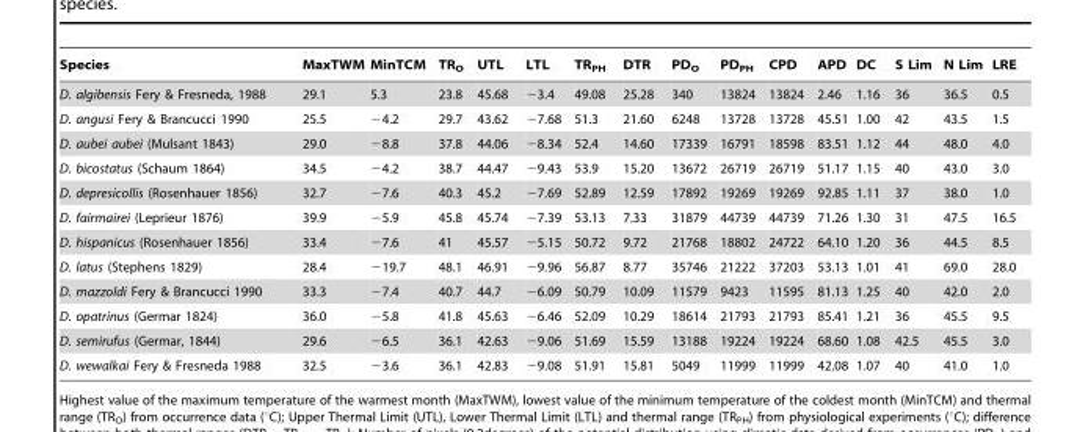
<table><thead><tr><td>Species</td><td>MaxTWM</td><td>MinTCM</td><td>TR<sub>O</sub></td><td>UTL</td><td>LTL</td><td>TR<sub>PH</sub></td><td>DTR</td><td>PD<sub>O</sub></td><td>PD<sub>PH</sub></td><td>CPD</td><td>APD</td><td>DC</td><td>S Lim</td><td>N Lim</td><td>LRE</td></tr></thead><tbody><tr><td>D. algibensis Fery &amp; Fresneda, 1988</td><td>29.1</td><td>5.3</td><td>23.8</td><td>45.68</td><td>−3.4</td><td>49.08</td><td>25.28</td><td>340</td><td>13824</td><td>13824</td><td>2.46</td><td>1.16</td><td>36</td><td>36.5</td><td>0.5</td></tr><tr><td>D. angusi Fery &amp; Brancucci 1990</td><td>25.5</td><td>−4.2</td><td>29.7</td><td>43.62</td><td>−7.68</td><td>51.3</td><td>21.60</td><td>6248</td><td>13728</td><td>13728</td><td>45.51</td><td>1.00</td><td>42</td><td>43.5</td><td>1.5</td></tr><tr><td>D. aubei aubei (Mulsant 1843)</td><td>29.0</td><td>−8.8</td><td>37.8</td><td>44.06</td><td>−8.34</td><td>52.4</td><td>14.60</td><td>17339</td><td>16791</td><td>18598</td><td>83.51</td><td>1.12</td><td>44</td><td>48.0</td><td>4.0</td></tr><tr><td>D. bicostatus (Schaum 1864)</td><td>34.5</td><td>−4.2</td><td>38.7</td><td>44.47</td><td>−9.43</td><td>53.9</td><td>15.20</td><td>13672</td><td>26719</td><td>26719</td><td>51.17</td><td>1.15</td><td>40</td><td>43.0</td><td>3.0</td></tr><tr><td>D. depresicollis (Rosenhauer 1856)</td><td>32.7</td><td>−7.6</td><td>40.3</td><td>45.2</td><td>−7.69</td><td>52.89</td><td>12.59</td><td>17892</td><td>19269</td><td>19269</td><td>92.85</td><td>1.11</td><td>37</td><td>38.0</td><td>1.0</td></tr><tr><td>D. fairmairei (Leprieur 1876)</td><td>39.9</td><td>−5.9</td><td>45.8</td><td>45.74</td><td>−7.39</td><td>53.13</td><td>7.33</td><td>31879</td><td>44739</td><td>44739</td><td>71.26</td><td>1.30</td><td>31</td><td>47.5</td><td>16.5</td></tr><tr><td>D. hispanicus (Rosenhauer 1856)</td><td>33.4</td><td>−7.6</td><td>41</td><td>45.57</td><td>−5.15</td><td>50.72</td><td>9.72</td><td>21768</td><td>18802</td><td>24722</td><td>64.10</td><td>1.20</td><td>36</td><td>44.5</td><td>8.5</td></tr><tr><td>D. latus (Stephens 1829)</td><td>28.4</td><td>−19.7</td><td>48.1</td><td>46.91</td><td>−9.96</td><td>56.87</td><td>8.77</td><td>35746</td><td>21222</td><td>37203</td><td>53.13</td><td>1.01</td><td>41</td><td>69.0</td><td>28.0</td></tr><tr><td>D. mazzoldi Fery &amp; Brancucci 1990</td><td>33.3</td><td>−7.4</td><td>40.7</td><td>44.7</td><td>−6.09</td><td>50.79</td><td>10.09</td><td>11579</td><td>9423</td><td>11595</td><td>81.13</td><td>1.25</td><td>40</td><td>42.0</td><td>2.0</td></tr><tr><td>D. opatrinus (Germar 1824)</td><td>36.0</td><td>−5.8</td><td>41.8</td><td>45.63</td><td>−6.46</td><td>52.09</td><td>10.29</td><td>18614</td><td>21793</td><td>21793</td><td>85.41</td><td>1.21</td><td>36</td><td>45.5</td><td>9.5</td></tr><tr><td>D. semirufus (Germar, 1844)</td><td>29.6</td><td>−6.5</td><td>36.1</td><td>42.63</td><td>−9.06</td><td>51.69</td><td>15.59</td><td>13188</td><td>19224</td><td>19224</td><td>68.60</td><td>1.08</td><td>42.5</td><td>45.5</td><td>3.0</td></tr><tr><td>D. wewalkai Fery &amp; Fresneda 1988</td><td>32.5</td><td>−3.6</td><td>36.1</td><td>42.83</td><td>−9.08</td><td>51.91</td><td>15.81</td><td>5049</td><td>11999</td><td>11999</td><td>42.08</td><td>1.07</td><td>40</td><td>41.0</td><td>1.0</td></tr></tbody></table>